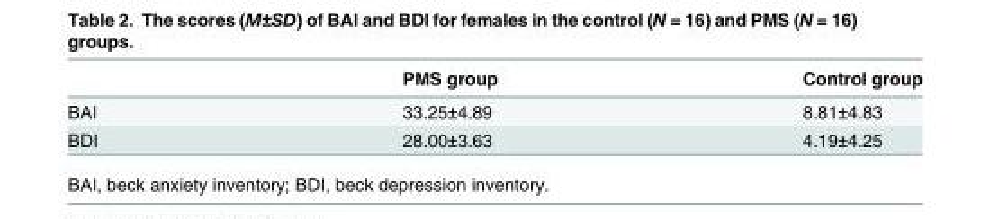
<table><thead><tr><td></td><td>PMS group</td><td>Control group</td></tr></thead><tbody><tr><td>BAI</td><td>33.25±4.89</td><td>8.81±4.83</td></tr><tr><td>BDI</td><td>28.00±3.63</td><td>4.19±4.25</td></tr></tbody></table>